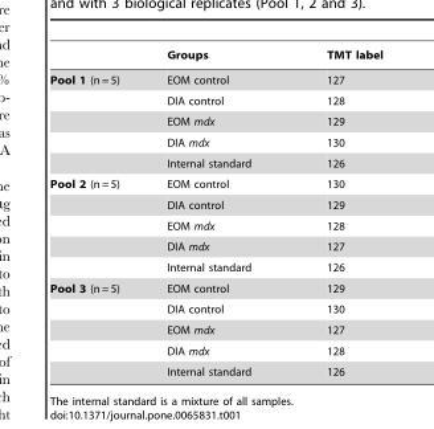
<table><thead><tr><td></td><td>Groups</td><td>TMT label</td></tr></thead><tbody><tr><td rowspan="5">Pool 1 (n = 5)</td><td>EOM control</td><td>127</td></tr><tr><td>DIA control</td><td>128</td></tr><tr><td>EOM mdx</td><td>129</td></tr><tr><td>DIA mdx</td><td>130</td></tr><tr><td>Internal standard</td><td>126</td></tr><tr><td rowspan="5">Pool 2 (n = 5)</td><td>EOM control</td><td>130</td></tr><tr><td>DIA control</td><td>129</td></tr><tr><td>EOM mdx</td><td>128</td></tr><tr><td>DIA mdx</td><td>127</td></tr><tr><td>Internal standard</td><td>126</td></tr><tr><td rowspan="5">Pool 3 (n = 5)</td><td>EOM control</td><td>129</td></tr><tr><td>DIA control</td><td>130</td></tr><tr><td>EOM mdx</td><td>127</td></tr><tr><td>DIA mdx</td><td>128</td></tr><tr><td>Internal standard</td><td>126</td></tr></tbody></table>